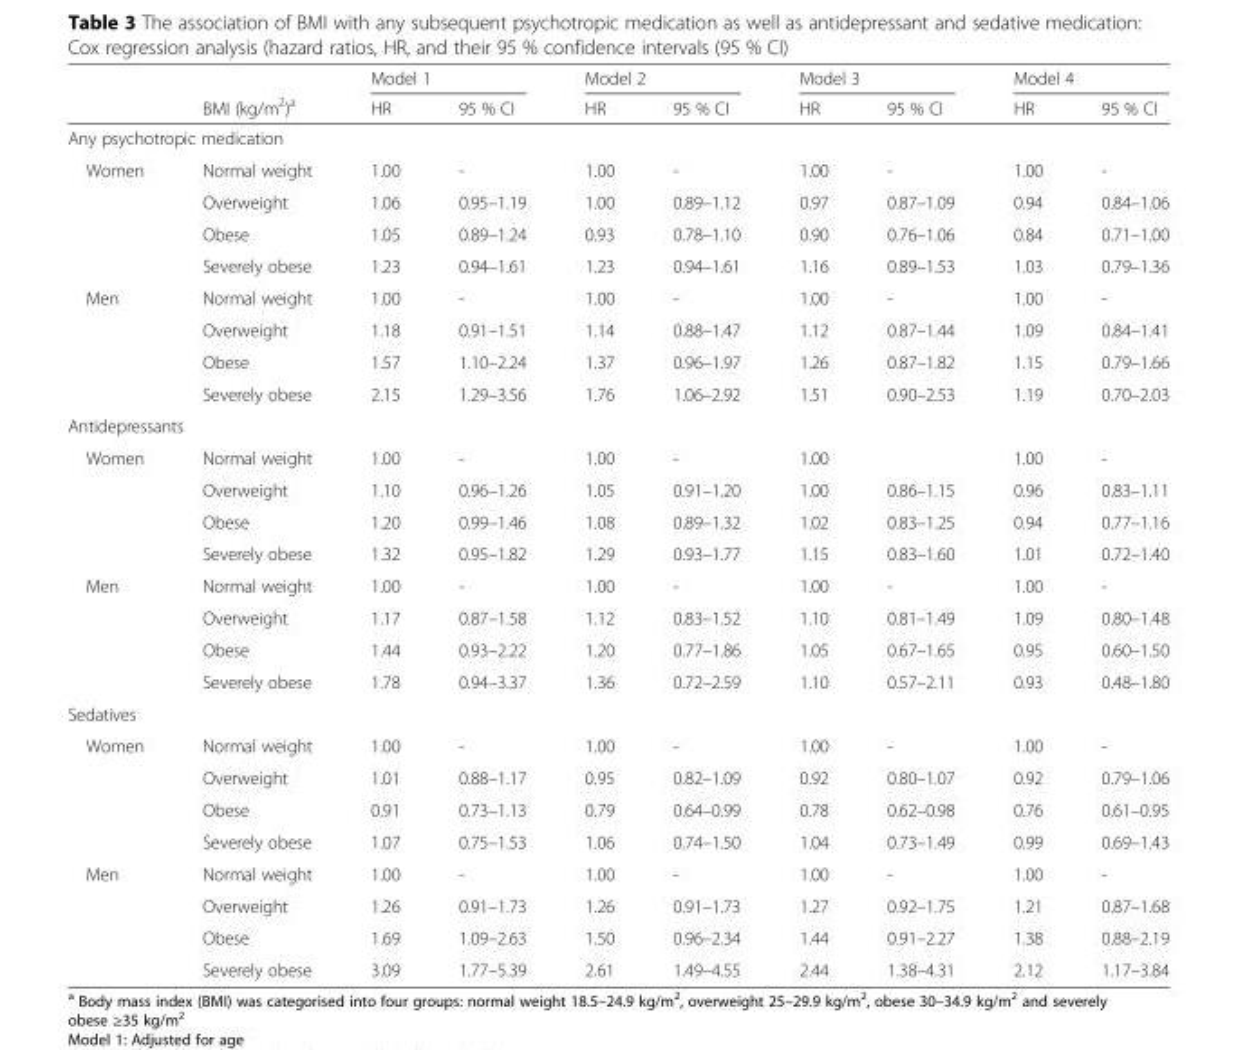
<table><thead><tr><td rowspan="2"></td><td rowspan="2">BMI (kg/m<sup>2</sup>)<sup>a</sup></td><td colspan="2">Model 1</td><td colspan="2">Model 2</td><td colspan="2">Model 3</td><td colspan="2">Model 4</td></tr><tr><td>HR</td><td>95 % CI</td><td>HR</td><td>95 % CI</td><td>HR</td><td>95 % CI</td><td>HR</td><td>95 % CI</td></tr></thead><tbody><tr><td colspan="10">Any psychotropic medication</td></tr><tr><td rowspan="4">Women</td><td>Normal weight</td><td>1.00</td><td>-</td><td>1.00</td><td>-</td><td>1.00</td><td>-</td><td>1.00</td><td>-</td></tr><tr><td>Overweight</td><td>1.06</td><td>0.95–1.19</td><td>1.00</td><td>0.89–1.12</td><td>0.97</td><td>0.87–1.09</td><td>0.94</td><td>0.84–1.06</td></tr><tr><td>Obese</td><td>1.05</td><td>0.89–1.24</td><td>0.93</td><td>0.78–1.10</td><td>0.90</td><td>0.76–1.06</td><td>0.84</td><td>0.71–1.00</td></tr><tr><td>Severely obese</td><td>1.23</td><td>0.94–1.61</td><td>1.23</td><td>0.94–1.61</td><td>1.16</td><td>0.89–1.53</td><td>1.03</td><td>0.79–1.36</td></tr><tr><td rowspan="4">Men</td><td>Normal weight</td><td>1.00</td><td>-</td><td>1.00</td><td>-</td><td>1.00</td><td>-</td><td>1.00</td><td>-</td></tr><tr><td>Overweight</td><td>1.18</td><td>0.91–1.51</td><td>1.14</td><td>0.88–1.47</td><td>1.12</td><td>0.87–1.44</td><td>1.09</td><td>0.84–1.41</td></tr><tr><td>Obese</td><td>1.57</td><td>1.10–2.24</td><td>1.37</td><td>0.96–1.97</td><td>1.26</td><td>0.87–1.82</td><td>1.15</td><td>0.79–1.66</td></tr><tr><td>Severely obese</td><td>2.15</td><td>1.29–3.56</td><td>1.76</td><td>1.06–2.92</td><td>1.51</td><td>0.90–2.53</td><td>1.19</td><td>0.70–2.03</td></tr><tr><td colspan="10">Antidepressants</td></tr><tr><td rowspan="4">Women</td><td>Normal weight</td><td>1.00</td><td>-</td><td>1.00</td><td>-</td><td>1.00</td><td></td><td>1.00</td><td>-</td></tr><tr><td>Overweight</td><td>1.10</td><td>0.96–1.26</td><td>1.05</td><td>0.91–1.20</td><td>1.00</td><td>0.86–1.15</td><td>0.96</td><td>0.83–1.11</td></tr><tr><td>Obese</td><td>1.20</td><td>0.99–1.46</td><td>1.08</td><td>0.89–1.32</td><td>1.02</td><td>0.83–1.25</td><td>0.94</td><td>0.77–1.16</td></tr><tr><td>Severely obese</td><td>1.32</td><td>0.95–1.82</td><td>1.29</td><td>0.93–1.77</td><td>1.15</td><td>0.83–1.60</td><td>1.01</td><td>0.72–1.40</td></tr><tr><td rowspan="4">Men</td><td>Normal weight</td><td>1.00</td><td>-</td><td>1.00</td><td>-</td><td>1.00</td><td>-</td><td>1.00</td><td>-</td></tr><tr><td>Overweight</td><td>1.17</td><td>0.87–1.58</td><td>1.12</td><td>0.83–1.52</td><td>1.10</td><td>0.81–1.49</td><td>1.09</td><td>0.80–1.48</td></tr><tr><td>Obese</td><td>1.44</td><td>0.93–2.22</td><td>1.20</td><td>0.77–1.86</td><td>1.05</td><td>0.67–1.65</td><td>0.95</td><td>0.60–1.50</td></tr><tr><td>Severely obese</td><td>1.78</td><td>0.94–3.37</td><td>1.36</td><td>0.72–2.59</td><td>1.10</td><td>0.57–2.11</td><td>0.93</td><td>0.48–1.80</td></tr><tr><td colspan="10">Sedatives</td></tr><tr><td rowspan="4">Women</td><td>Normal weight</td><td>1.00</td><td>-</td><td>1.00</td><td>-</td><td>1.00</td><td>-</td><td>1.00</td><td>-</td></tr><tr><td>Overweight</td><td>1.01</td><td>0.88–1.17</td><td>0.95</td><td>0.82–1.09</td><td>0.92</td><td>0.80–1.07</td><td>0.92</td><td>0.79–1.06</td></tr><tr><td>Obese</td><td>0.91</td><td>0.73–1.13</td><td>0.79</td><td>0.64–0.99</td><td>0.78</td><td>0.62–0.98</td><td>0.76</td><td>0.61–0.95</td></tr><tr><td>Severely obese</td><td>1.07</td><td>0.75–1.53</td><td>1.06</td><td>0.74–1.50</td><td>1.04</td><td>0.73–1.49</td><td>0.99</td><td>0.69–1.43</td></tr><tr><td rowspan="4">Men</td><td>Normal weight</td><td>1.00</td><td>-</td><td>1.00</td><td>-</td><td>1.00</td><td>-</td><td>1.00</td><td>-</td></tr><tr><td>Overweight</td><td>1.26</td><td>0.91–1.73</td><td>1.26</td><td>0.91–1.73</td><td>1.27</td><td>0.92–1.75</td><td>1.21</td><td>0.87–1.68</td></tr><tr><td>Obese</td><td>1.69</td><td>1.09–2.63</td><td>1.50</td><td>0.96–2.34</td><td>1.44</td><td>0.91–2.27</td><td>1.38</td><td>0.88–2.19</td></tr><tr><td>Severely obese</td><td>3.09</td><td>1.77–5.39</td><td>2.61</td><td>1.49–4.55</td><td>2.44</td><td>1.38–4.31</td><td>2.12</td><td>1.17–3.84</td></tr></tbody></table>